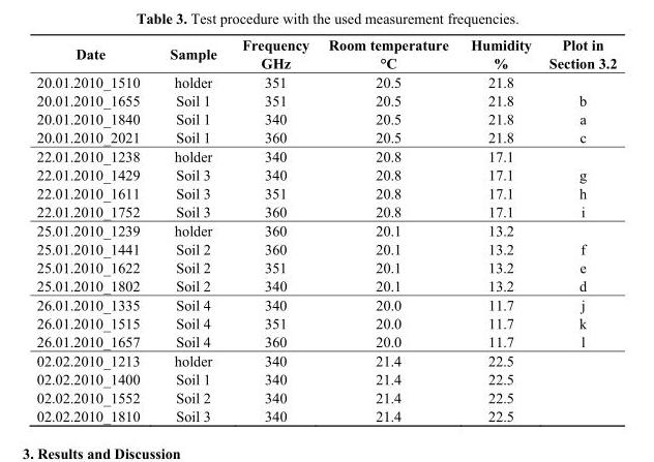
<table><thead><tr><td>Date</td><td>Sample</td><td>Frequency GHz</td><td>Room temperature °C</td><td>Humidity %</td><td>Plot in Section 3.2</td></tr></thead><tbody><tr><td>20.01.2010_1510</td><td>holder</td><td>351</td><td>20.5</td><td>21.8</td><td></td></tr><tr><td>20.01.2010_1655</td><td>Soil 1</td><td>351</td><td>20.5</td><td>21.8</td><td>b</td></tr><tr><td>20.01.2010_1840</td><td>Soil 1</td><td>340</td><td>20.5</td><td>21.8</td><td>a</td></tr><tr><td>20.01.2010_2021</td><td>Soil 1</td><td>360</td><td>20.5</td><td>21.8</td><td>c</td></tr><tr><td>22.01.2010_1238</td><td>holder</td><td>340</td><td>20.8</td><td>17.1</td><td></td></tr><tr><td>22.01.2010_1429</td><td>Soil 3</td><td>340</td><td>20.8</td><td>17.1</td><td>g</td></tr><tr><td>22.01.2010_1611</td><td>Soil 3</td><td>351</td><td>20.8</td><td>17.1</td><td>h</td></tr><tr><td>22.01.2010_1752</td><td>Soil 3</td><td>360</td><td>20.8</td><td>17.1</td><td>i</td></tr><tr><td>25.01.2010_1239</td><td>holder</td><td>360</td><td>20.1</td><td>13.2</td><td></td></tr><tr><td>25.01.2010_1441</td><td>Soil 2</td><td>360</td><td>20.1</td><td>13.2</td><td>f</td></tr><tr><td>25.01.2010_1622</td><td>Soil 2</td><td>351</td><td>20.1</td><td>13.2</td><td>e</td></tr><tr><td>25.01.2010_1802</td><td>Soil 2</td><td>340</td><td>20.1</td><td>13.2</td><td>d</td></tr><tr><td>26.01.2010_1335</td><td>Soil 4</td><td>340</td><td>20.0</td><td>11.7</td><td>j</td></tr><tr><td>26.01.2010_1515</td><td>Soil 4</td><td>351</td><td>20.0</td><td>11.7</td><td>k</td></tr><tr><td>26.01.2010_1657</td><td>Soil 4</td><td>360</td><td>20.0</td><td>11.7</td><td>l</td></tr><tr><td>02.02.2010_1213</td><td>holder</td><td>340</td><td>21.4</td><td>22.5</td><td></td></tr><tr><td>02.02.2010_1400</td><td>Soil 1</td><td>340</td><td>21.4</td><td>22.5</td><td></td></tr><tr><td>02.02.2010_1552</td><td>Soil 2</td><td>340</td><td>21.4</td><td>22.5</td><td></td></tr><tr><td>02.02.2010_1810</td><td>Soil 3</td><td>340</td><td>21.4</td><td>22.5</td><td></td></tr></tbody></table>